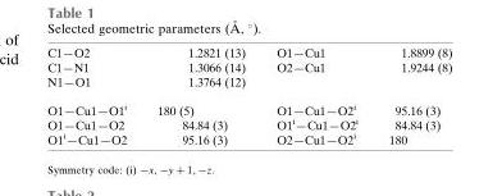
<table><tbody><tr><td>C1—O2</td><td>1.2821 (13)</td><td>O1—Cu1</td><td>1.8899 (8)</td></tr><tr><td>C1—N1</td><td>1.3066 (14)</td><td>O2—Cu1</td><td>1.9244 (8)</td></tr><tr><td>N1—O1</td><td>1.3764 (12)</td><td></td><td></td></tr><tr><td>O1—Cu1—O1<sup>i</sup></td><td>180 (5)</td><td>O1—Cu1—O2<sup>i</sup></td><td>95.16 (3)</td></tr><tr><td>O1—Cu1—O2</td><td>84.84 (3)</td><td>O1<sup>i</sup>—Cu1—O2<sup>i</sup></td><td>84.84 (3)</td></tr><tr><td>O1<sup>i</sup>—Cu1—O2</td><td>95.16 (3)</td><td>O2—Cu1—O2<sup>i</sup></td><td>180</td></tr></tbody></table>